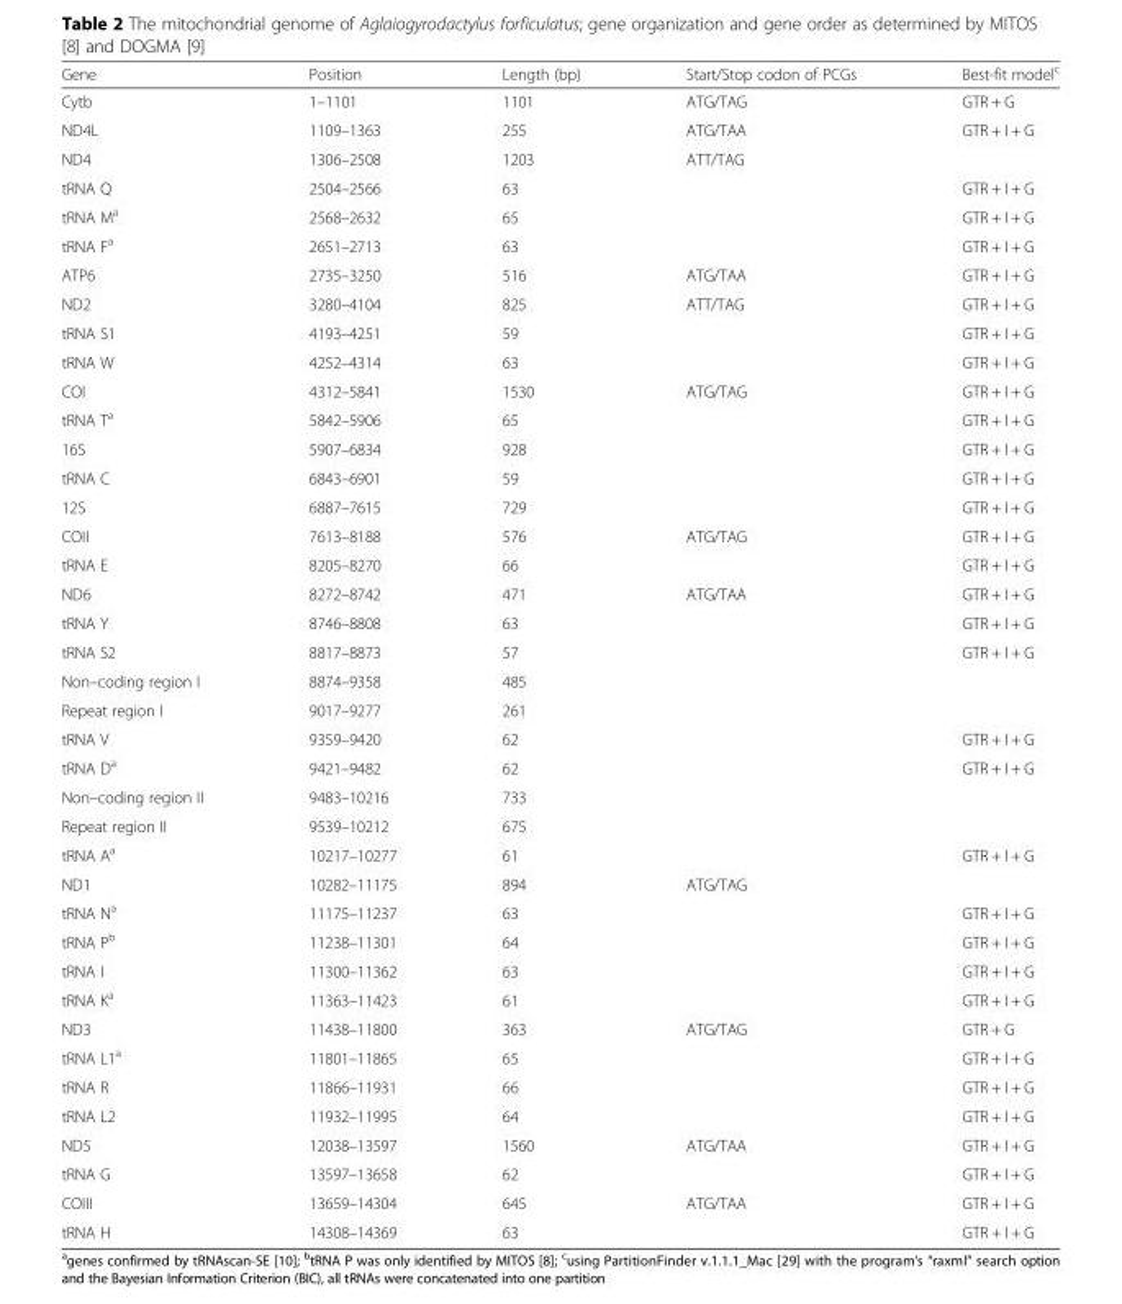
<table><thead><tr><td>Gene</td><td>Position</td><td>Length (bp)</td><td>Start/Stop codon of PCGs</td><td>Best-fit model<sup>c</sup></td></tr></thead><tbody><tr><td>Cytb</td><td>1–1101</td><td>1101</td><td>ATG/TAG</td><td>GTR + G</td></tr><tr><td>ND4L</td><td>1109–1363</td><td>255</td><td>ATG/TAA</td><td>GTR + I + G</td></tr><tr><td>ND4</td><td>1306–2508</td><td>1203</td><td>ATT/TAG</td><td></td></tr><tr><td>tRNA Q</td><td>2504–2566</td><td>63</td><td></td><td>GTR + I + G</td></tr><tr><td>tRNA M<sup>a</sup></td><td>2568–2632</td><td>65</td><td></td><td>GTR + I + G</td></tr><tr><td>tRNA F<sup>a</sup></td><td>2651–2713</td><td>63</td><td></td><td>GTR + I + G</td></tr><tr><td>ATP6</td><td>2735–3250</td><td>516</td><td>ATG/TAA</td><td>GTR + I + G</td></tr><tr><td>ND2</td><td>3280–4104</td><td>825</td><td>ATT/TAG</td><td>GTR + I + G</td></tr><tr><td>tRNA S1</td><td>4193–4251</td><td>59</td><td></td><td>GTR + I + G</td></tr><tr><td>tRNA W</td><td>4252–4314</td><td>63</td><td></td><td>GTR + I + G</td></tr><tr><td>COI</td><td>4312–5841</td><td>1530</td><td>ATG/TAG</td><td>GTR + I + G</td></tr><tr><td>tRNA T<sup>a</sup></td><td>5842–5906</td><td>65</td><td></td><td>GTR + I + G</td></tr><tr><td>16S</td><td>5907–6834</td><td>928</td><td></td><td>GTR + I + G</td></tr><tr><td>tRNA C</td><td>6843–6901</td><td>59</td><td></td><td>GTR + I + G</td></tr><tr><td>12S</td><td>6887–7615</td><td>729</td><td></td><td>GTR + I + G</td></tr><tr><td>COII</td><td>7613–8188</td><td>576</td><td>ATG/TAG</td><td>GTR + I + G</td></tr><tr><td>tRNA E</td><td>8205–8270</td><td>66</td><td></td><td>GTR + I + G</td></tr><tr><td>ND6</td><td>8272–8742</td><td>471</td><td>ATG/TAA</td><td>GTR + I + G</td></tr><tr><td>tRNA Y</td><td>8746–8808</td><td>63</td><td></td><td>GTR + I + G</td></tr><tr><td>tRNA S2</td><td>8817–8873</td><td>57</td><td></td><td>GTR + I + G</td></tr><tr><td>Non–coding region I</td><td>8874–9358</td><td>485</td><td></td><td></td></tr><tr><td>Repeat region I</td><td>9017–9277</td><td>261</td><td></td><td></td></tr><tr><td>tRNA V</td><td>9359–9420</td><td>62</td><td></td><td>GTR + I + G</td></tr><tr><td>tRNA D<sup>a</sup></td><td>9421–9482</td><td>62</td><td></td><td>GTR + I + G</td></tr><tr><td>Non–coding region II</td><td>9483–10216</td><td>733</td><td></td><td></td></tr><tr><td>Repeat region II</td><td>9539–10212</td><td>675</td><td></td><td></td></tr><tr><td>tRNA A<sup>a</sup></td><td>10217–10277</td><td>61</td><td></td><td>GTR + I + G</td></tr><tr><td>ND1</td><td>10282–11175</td><td>894</td><td>ATG/TAG</td><td></td></tr><tr><td>tRNA N<sup>a</sup></td><td>11175–11237</td><td>63</td><td></td><td>GTR + I + G</td></tr><tr><td>tRNA P<sup>b</sup></td><td>11238–11301</td><td>64</td><td></td><td>GTR + I + G</td></tr><tr><td>tRNA I</td><td>11300–11362</td><td>63</td><td></td><td>GTR + I + G</td></tr><tr><td>tRNA K<sup>a</sup></td><td>11363–11423</td><td>61</td><td></td><td>GTR + I + G</td></tr><tr><td>ND3</td><td>11438–11800</td><td>363</td><td>ATG/TAG</td><td>GTR + G</td></tr><tr><td>tRNA L1<sup>a</sup></td><td>11801–11865</td><td>65</td><td></td><td>GTR + I + G</td></tr><tr><td>tRNA R</td><td>11866–11931</td><td>66</td><td></td><td>GTR + I + G</td></tr><tr><td>tRNA L2</td><td>11932–11995</td><td>64</td><td></td><td>GTR + I + G</td></tr><tr><td>ND5</td><td>12038–13597</td><td>1560</td><td>ATG/TAA</td><td>GTR + I + G</td></tr><tr><td>tRNA G</td><td>13597–13658</td><td>62</td><td></td><td>GTR + I + G</td></tr><tr><td>COIII</td><td>13659–14304</td><td>645</td><td>ATG/TAA</td><td>GTR + I + G</td></tr><tr><td>tRNA H</td><td>14308–14369</td><td>63</td><td></td><td>GTR + I + G</td></tr></tbody></table>